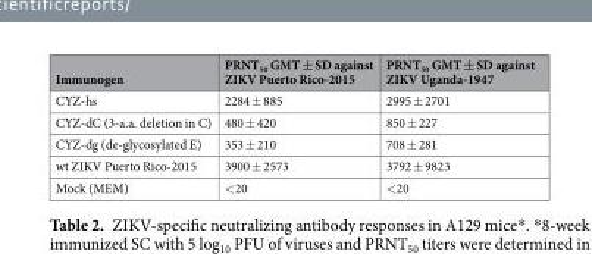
<table><thead><tr><td>Immunogen</td><td>PRNT<sub>50</sub> GMT ± SD against ZIKV Puerto Rico-2015</td><td>PRNT<sub>50</sub> GMT ± SD against ZIKV Uganda-1947</td></tr></thead><tbody><tr><td>CYZ-hs</td><td>2284 ± 885</td><td>2995 ± 2701</td></tr><tr><td>CYZ-dC (3-a.a. deletion in C)</td><td>480 ± 420</td><td>850 ± 227</td></tr><tr><td>CYZ-dg (de-glycosylated E)</td><td>353 ± 210</td><td>708 ± 281</td></tr><tr><td>wt ZIKV Puerto Rico-2015</td><td>3900 ± 2573</td><td>3792 ± 9823</td></tr><tr><td>Mock (MEM)</td><td>&lt;20</td><td>&lt;20</td></tr></tbody></table>